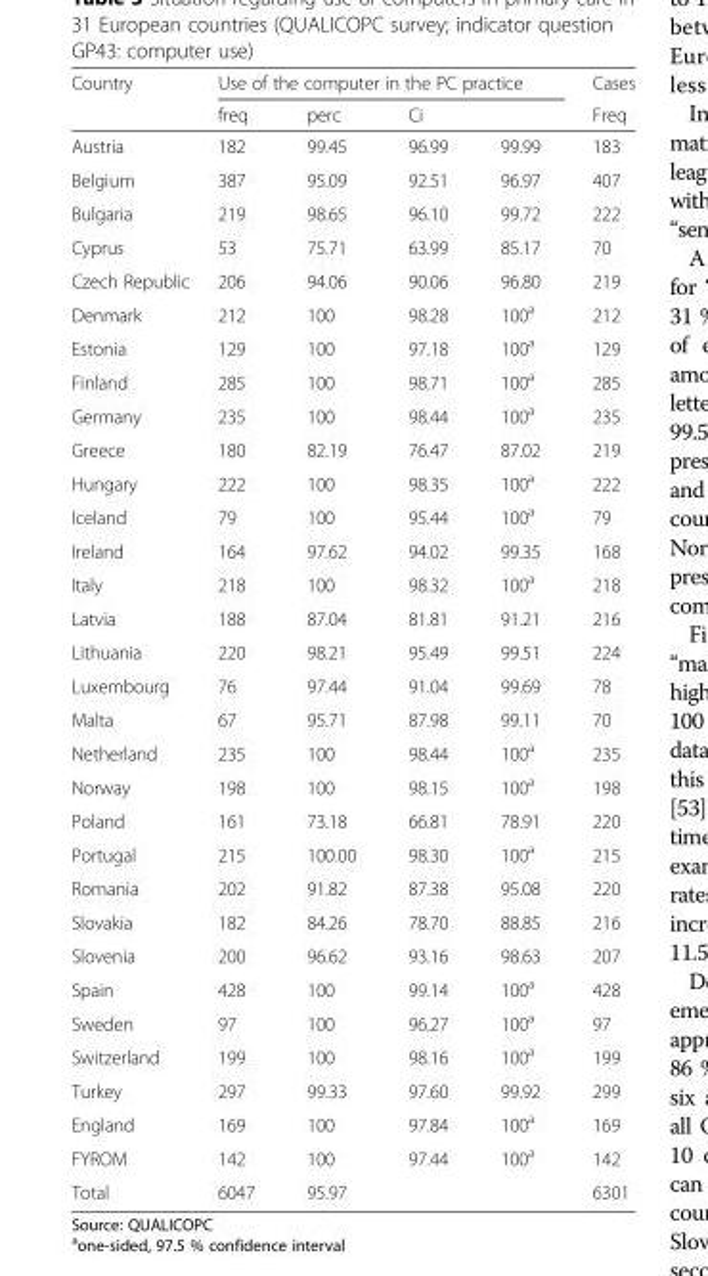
<table><thead><tr><td rowspan="3">Country Austria</td><td colspan="4">Use of the computer in the PC practice</td><td rowspan="3">Cases Freq 183</td></tr><tr><td rowspan="2">freq 182</td><td rowspan="2">perc 99.45</td><td colspan="2">Ci</td></tr><tr><td>96.99</td><td>99.99</td></tr></thead><tbody><tr><td>Belgium</td><td>387</td><td>95.09</td><td>92.51</td><td>96.97</td><td>407</td></tr><tr><td>Bulgaria</td><td>219</td><td>98.65</td><td>96.10</td><td>99.72</td><td>222</td></tr><tr><td>Cyprus</td><td>53</td><td>75.71</td><td>63.99</td><td>85.17</td><td>70</td></tr><tr><td>Czech Republic</td><td>206</td><td>94.06</td><td>90.06</td><td>96.80</td><td>219</td></tr><tr><td>Denmark</td><td>212</td><td>100</td><td>98.28</td><td>100<sup>a</sup></td><td>212</td></tr><tr><td>Estonia</td><td>129</td><td>100</td><td>97.18</td><td>100<sup>a</sup></td><td>129</td></tr><tr><td>Finland</td><td>285</td><td>100</td><td>98.71</td><td>100<sup>a</sup></td><td>285</td></tr><tr><td>Germany</td><td>235</td><td>100</td><td>98.44</td><td>100<sup>a</sup></td><td>235</td></tr><tr><td>Greece</td><td>180</td><td>82.19</td><td>76.47</td><td>87.02</td><td>219</td></tr><tr><td>Hungary</td><td>222</td><td>100</td><td>98.35</td><td>100<sup>a</sup></td><td>222</td></tr><tr><td>Iceland</td><td>79</td><td>100</td><td>95.44</td><td>100<sup>a</sup></td><td>79</td></tr><tr><td>Ireland</td><td>164</td><td>97.62</td><td>94.02</td><td>99.35</td><td>168</td></tr><tr><td>Italy</td><td>218</td><td>100</td><td>98.32</td><td>100<sup>a</sup></td><td>218</td></tr><tr><td>Latvia</td><td>188</td><td>87.04</td><td>81.81</td><td>91.21</td><td>216</td></tr><tr><td>Lithuania</td><td>220</td><td>98.21</td><td>95.49</td><td>99.51</td><td>224</td></tr><tr><td>Luxembourg</td><td>76</td><td>97.44</td><td>91.04</td><td>99.69</td><td>78</td></tr><tr><td>Malta</td><td>67</td><td>95.71</td><td>87.98</td><td>99.11</td><td>70</td></tr><tr><td>Netherland</td><td>235</td><td>100</td><td>98.44</td><td>100<sup>a</sup></td><td>235</td></tr><tr><td>Norway</td><td>198</td><td>100</td><td>98.15</td><td>100<sup>a</sup></td><td>198</td></tr><tr><td>Poland</td><td>161</td><td>73.18</td><td>66.81</td><td>78.91</td><td>220</td></tr><tr><td>Portugal</td><td>215</td><td>100.00</td><td>98.30</td><td>100<sup>a</sup></td><td>215</td></tr><tr><td>Romania</td><td>202</td><td>91.82</td><td>87.38</td><td>95.08</td><td>220</td></tr><tr><td>Slovakia</td><td>182</td><td>84.26</td><td>78.70</td><td>88.85</td><td>216</td></tr><tr><td>Slovenia</td><td>200</td><td>96.62</td><td>93.16</td><td>98.63</td><td>207</td></tr><tr><td>Spain</td><td>428</td><td>100</td><td>99.14</td><td>100<sup>a</sup></td><td>428</td></tr><tr><td>Sweden</td><td>97</td><td>100</td><td>96.27</td><td>100<sup>a</sup></td><td>97</td></tr><tr><td>Switzerland</td><td>199</td><td>100</td><td>98.16</td><td>100<sup>a</sup></td><td>199</td></tr><tr><td>Turkey</td><td>297</td><td>99.33</td><td>97.60</td><td>99.92</td><td>299</td></tr><tr><td>England</td><td>169</td><td>100</td><td>97.84</td><td>100<sup>a</sup></td><td>169</td></tr><tr><td>FYROM</td><td>142</td><td>100</td><td>97.44</td><td>100<sup>a</sup></td><td>142</td></tr><tr><td>Total</td><td>6047</td><td>95.97</td><td></td><td></td><td>6301</td></tr></tbody></table>